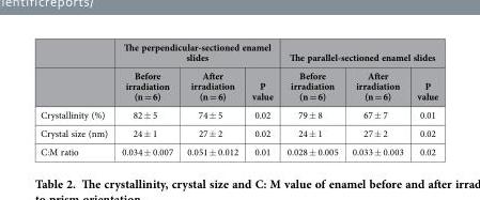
<table><thead><tr><td rowspan="2"></td><td colspan="3">The perpendicular-sectioned enamel slides</td><td colspan="3">The parallel-sectioned enamel slides</td></tr><tr><td>Before irradiation (n = 6)</td><td>After irradiation (n = 6)</td><td>P value</td><td>Before irradiation (n = 6)</td><td>After irradiation (n = 6)</td><td>P value</td></tr></thead><tbody><tr><td>Crystallinity (%)</td><td>82 ± 5</td><td>74 ± 5</td><td>0.02</td><td>79 ± 8</td><td>67 ± 7</td><td>0.01</td></tr><tr><td>Crystal size (nm)</td><td>24 ± 1</td><td>27 ± 2</td><td>0.02</td><td>24 ± 1</td><td>27 ± 2</td><td>0.02</td></tr><tr><td>C:M ratio</td><td>0.034 ± 0.007</td><td>0.051 ± 0.012</td><td>0.01</td><td>0.028 ± 0.005</td><td>0.033 ± 0.003</td><td>0.02</td></tr></tbody></table>